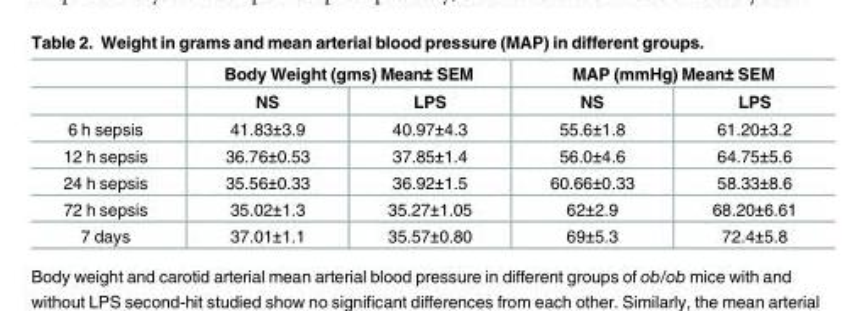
<table><thead><tr><td rowspan="2"></td><td colspan="2">Body Weight (gms) Mean± SEM</td><td colspan="2">MAP (mmHg) Mean± SEM</td></tr><tr><td>NS</td><td>LPS</td><td>NS</td><td>LPS</td></tr></thead><tbody><tr><td>6 h sepsis</td><td>41.83±3.9</td><td>40.97±4.3</td><td>55.6±1.8</td><td>61.20±3.2</td></tr><tr><td>12 h sepsis</td><td>36.76±0.53</td><td>37.85±1.4</td><td>56.0±4.6</td><td>64.75±5.6</td></tr><tr><td>24 h sepsis</td><td>35.56±0.33</td><td>36.92±1.5</td><td>60.66±0.33</td><td>58.33±8.6</td></tr><tr><td>72 h sepsis</td><td>35.02±1.3</td><td>35.27±1.05</td><td>62±2.9</td><td>68.20±6.61</td></tr><tr><td>7 days</td><td>37.01±1.1</td><td>35.57±0.80</td><td>69±5.3</td><td>72.4±5.8</td></tr></tbody></table>